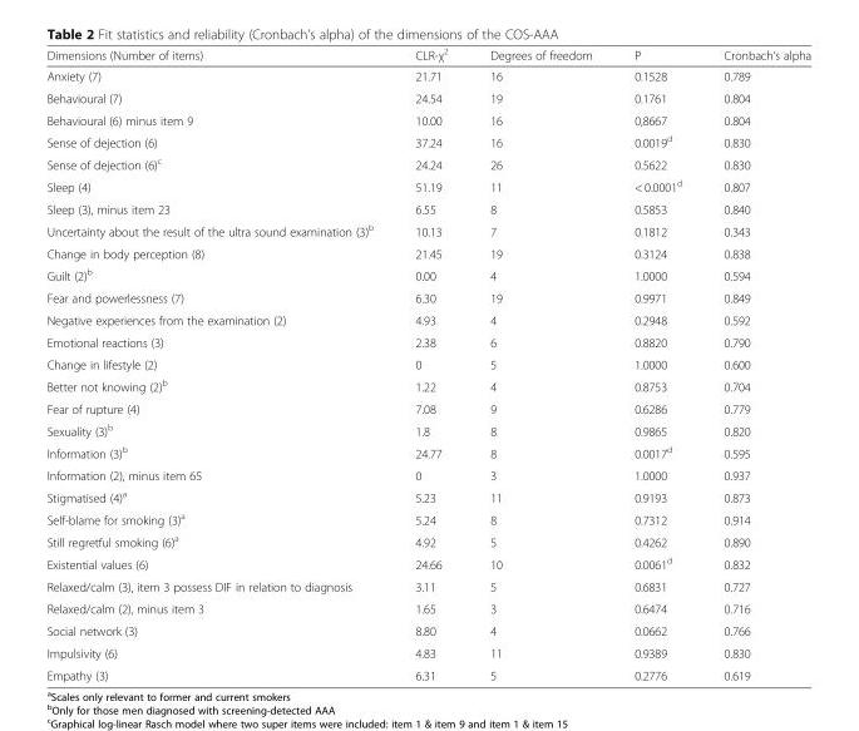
<table><thead><tr><td>Dimensions (Number of items)</td><td>CLR-χ2</td><td>Degrees of freedom</td><td>P</td><td>Cronbach’s alpha</td></tr></thead><tbody><tr><td>Anxiety (7)</td><td>21.71</td><td>16</td><td>0.1528</td><td>0.789</td></tr><tr><td>Behavioural (7)</td><td>24.54</td><td>19</td><td>0.1761</td><td>0.804</td></tr><tr><td>Behavioural (6) minus item 9</td><td>10.00</td><td>16</td><td>0,8667</td><td>0.804</td></tr><tr><td>Sense of dejection (6)</td><td>37.24</td><td>16</td><td>0.0019d</td><td>0.830</td></tr><tr><td>Sense of dejection (6)c</td><td>24.24</td><td>26</td><td>0.5622</td><td>0.830</td></tr><tr><td>Sleep (4)</td><td>51.19</td><td>11</td><td>&lt; 0.0001d</td><td>0.807</td></tr><tr><td>Sleep (3), minus item 23</td><td>6.55</td><td>8</td><td>0.5853</td><td>0.840</td></tr><tr><td>Uncertainty about the result of the ultra sound examination (3)b</td><td>10.13</td><td>7</td><td>0.1812</td><td>0.343</td></tr><tr><td>Change in body perception (8)</td><td>21.45</td><td>19</td><td>0.3124</td><td>0.838</td></tr><tr><td>Guilt (2)b</td><td>0.00</td><td>4</td><td>1.0000</td><td>0.594</td></tr><tr><td>Fear and powerlessness (7)</td><td>6.30</td><td>19</td><td>0.9971</td><td>0.849</td></tr><tr><td>Negative experiences from the examination (2)</td><td>4.93</td><td>4</td><td>0.2948</td><td>0.592</td></tr><tr><td>Emotional reactions (3)</td><td>2.38</td><td>6</td><td>0.8820</td><td>0.790</td></tr><tr><td>Change in lifestyle (2)</td><td>0</td><td>5</td><td>1.0000</td><td>0.600</td></tr><tr><td>Better not knowing (2)b</td><td>1.22</td><td>4</td><td>0.8753</td><td>0.704</td></tr><tr><td>Fear of rupture (4)</td><td>7.08</td><td>9</td><td>0.6286</td><td>0.779</td></tr><tr><td>Sexuality (3)b</td><td>1.8</td><td>8</td><td>0.9865</td><td>0.820</td></tr><tr><td>Information (3)b</td><td>24.77</td><td>8</td><td>0.0017d</td><td>0.595</td></tr><tr><td>Information (2), minus item 65</td><td>0</td><td>3</td><td>1.0000</td><td>0.937</td></tr><tr><td>Stigmatised (4)a</td><td>5.23</td><td>11</td><td>0.9193</td><td>0.873</td></tr><tr><td>Self-blame for smoking (3)a</td><td>5.24</td><td>8</td><td>0.7312</td><td>0.914</td></tr><tr><td>Still regretful smoking (6)a</td><td>4.92</td><td>5</td><td>0.4262</td><td>0.890</td></tr><tr><td>Existential values (6)</td><td>24.66</td><td>10</td><td>0.0061d</td><td>0.832</td></tr><tr><td>Relaxed/calm (3), item 3 possess DIF in relation to diagnosis</td><td>3.11</td><td>5</td><td>0.6831</td><td>0.727</td></tr><tr><td>Relaxed/calm (2), minus item 3</td><td>1.65</td><td>3</td><td>0.6474</td><td>0.716</td></tr><tr><td>Social network (3)</td><td>8.80</td><td>4</td><td>0.0662</td><td>0.766</td></tr><tr><td>Impulsivity (6)</td><td>4.83</td><td>11</td><td>0.9389</td><td>0.830</td></tr><tr><td>Empathy (3)</td><td>6.31</td><td>5</td><td>0.2776</td><td>0.619</td></tr></tbody></table>